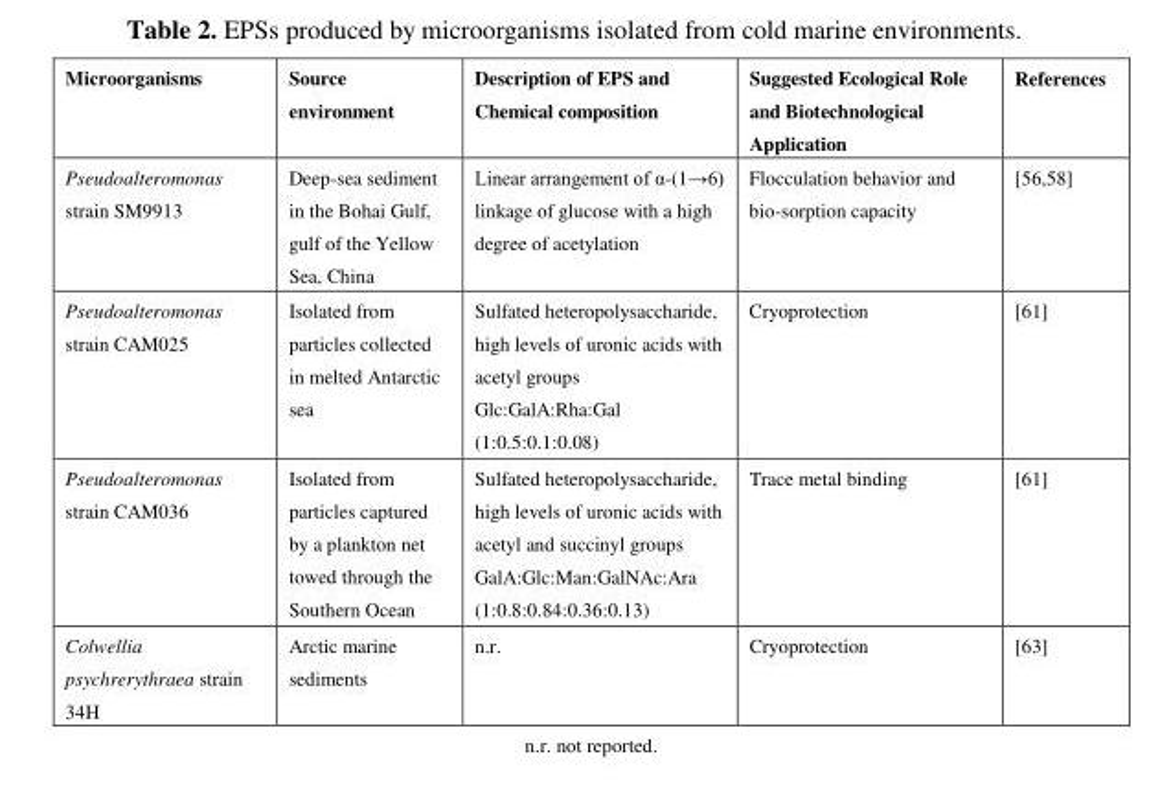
<table><thead><tr><td>Microorganisms</td><td>Source environment</td><td>Description of EPS and Chemical composition</td><td>Suggested Ecological Role and Biotechnological Application</td><td>References</td></tr></thead><tbody><tr><td>Pseudoalteromonas strain SM9913</td><td>Deep-sea sediment in the Bohai Gulf, gulf of the Yellow Sea, China</td><td>Linear arrangement of α-(1→6) linkage of glucose with a high degree of acetylation</td><td>Flocculation behavior and bio-sorption capacity</td><td>[56,58]</td></tr><tr><td>Pseudoalteromonas strain CAM025</td><td>Isolated from particles collected in melted Antarctic sea</td><td>Sulfated heteropolysaccharide, high levels of uronic acids with acetyl groups Glc:GalA:Rha:Gal (1:0.5:0.1:0.08)</td><td>Cryoprotection</td><td>[61]</td></tr><tr><td>Pseudoalteromonas strain CAM036</td><td>Isolated from particles captured by a plankton net towed through the Southern Ocean</td><td>Sulfated heteropolysaccharide, high levels of uronic acids with acetyl and succinyl groups GalA:Glc:Man:GalNAc:Ara (1:0.8:0.84:0.36:0.13)</td><td>Trace metal binding</td><td>[61]</td></tr><tr><td>Colwellia psychrerythraea strain 34H</td><td>Arctic marine sediments</td><td>n.r.</td><td>Cryoprotection</td><td>[63]</td></tr></tbody></table>